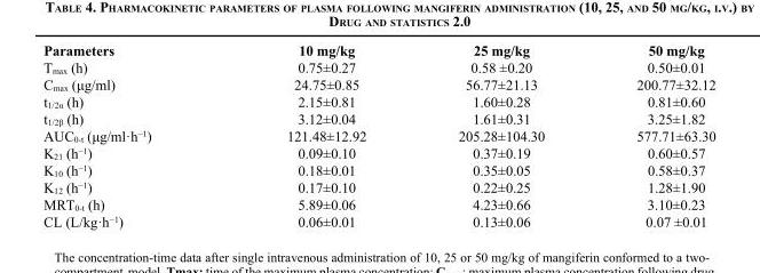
<table><thead><tr><td>Parameters</td><td>10 mg/kg</td><td>25 mg/kg</td><td>50 mg/kg</td></tr></thead><tbody><tr><td>T<sub>max</sub> (h)</td><td>0.75±0.27</td><td>0.58 ±0.20</td><td>0.50±0.01</td></tr><tr><td>C<sub>max</sub> (μg/ml)</td><td>24.75±0.85</td><td>56.77±21.13</td><td>200.77±32.12</td></tr><tr><td>t<sub>1/2α</sub> (h)</td><td>2.15±0.81</td><td>1.60±0.28</td><td>0.81±0.60</td></tr><tr><td>t<sub>1/2β</sub> (h)</td><td>3.12±0.04</td><td>1.61±0.31</td><td>3.25±1.82</td></tr><tr><td>AUC<sub>0-t</sub> (μg/ml·h<sup>−1</sup>)</td><td>121.48±12.92</td><td>205.28±104.30</td><td>577.71±63.30</td></tr><tr><td>K<sub>21</sub> (h<sup>−1</sup>)</td><td>0.09±0.10</td><td>0.37±0.19</td><td>0.60±0.57</td></tr><tr><td>K<sub>10</sub> (h<sup>−1</sup>)</td><td>0.18±0.01</td><td>0.35±0.05</td><td>0.58±0.37</td></tr><tr><td>K<sub>12</sub> (h<sup>−1</sup>)</td><td>0.17±0.10</td><td>0.22±0.25</td><td>1.28±1.90</td></tr><tr><td>MRT<sub>0-t</sub> (h)</td><td>5.89±0.06</td><td>4.23±0.66</td><td>3.10±0.23</td></tr><tr><td>CL (L/kg·h<sup>−1</sup>)</td><td>0.06±0.01</td><td>0.13±0.06</td><td>0.07 ±0.01</td></tr></tbody></table>